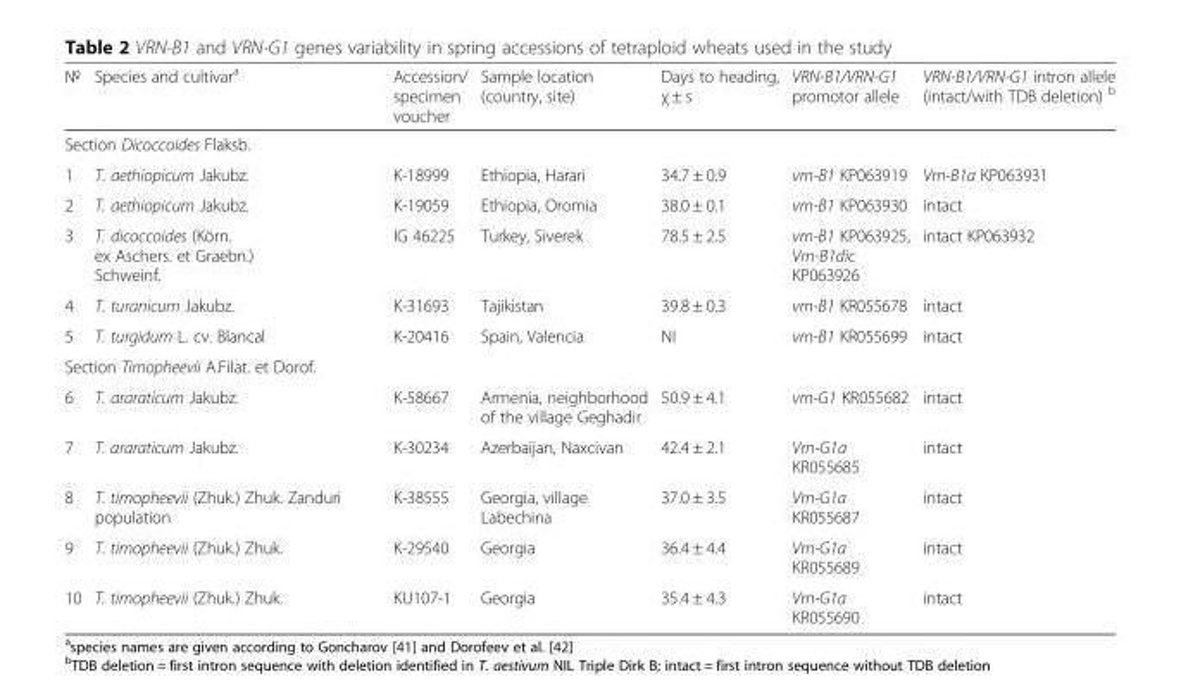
<table><thead><tr><td>№</td><td>Species and cultivar<sup>a</sup></td><td>Accession/ specimen voucher</td><td>Sample location (country, site)</td><td>Days to heading, χ ± s</td><td>VRN-B1/VRN-G1 promotor allele</td><td>VRN-B1/VRN-G1 intron allele (intact/with TDB deletion) <sup>b</sup></td></tr></thead><tbody><tr><td colspan="7">Section Dicoccoides Flaksb.</td></tr><tr><td>1</td><td>T. aethiopicum Jakubz.</td><td>K-18999</td><td>Ethiopia, Harari</td><td>34.7 ± 0.9</td><td>vrn-B1 KP063919</td><td>Vrn-B1a KP063931</td></tr><tr><td>2</td><td>T. aethiopicum Jakubz.</td><td>K-19059</td><td>Ethiopia, Oromia</td><td>38.0 ± 0.1</td><td>vrn-B1 KP063930</td><td>intact</td></tr><tr><td>3</td><td>T. dicoccoides (Körn. ex Aschers. et Graebn.) Schweinf.</td><td>IG 46225</td><td>Turkey, Siverek</td><td>78.5 ± 2.5</td><td>vrn-B1 KP063925, Vrn-B1dic KP063926</td><td>intact KP063932</td></tr><tr><td>4</td><td>T. turanicum Jakubz.</td><td>K-31693</td><td>Tajikistan</td><td>39.8 ± 0.3</td><td>vrn-B1 KR055678</td><td>intact</td></tr><tr><td>5</td><td>T. turgidum L. cv. Blancal</td><td>K-20416</td><td>Spain, Valencia</td><td>NI</td><td>vrn-B1 KR055699</td><td>intact</td></tr><tr><td colspan="7">Section Timopheevii A.Filat. et Dorof.</td></tr><tr><td>6</td><td>T. araraticum Jakubz.</td><td>K-58667</td><td>Armenia, neighborhood of the village Geghadir</td><td>50.9 ± 4.1</td><td>vrn-G1 KR055682</td><td>intact</td></tr><tr><td>7</td><td>T. araraticum Jakubz.</td><td>K-30234</td><td>Azerbaijan, Naxcivan</td><td>42.4 ± 2.1</td><td>Vrn-G1a KR055685</td><td>intact</td></tr><tr><td>8</td><td>T. timopheevii (Zhuk.) Zhuk. Zanduri population</td><td>K-38555</td><td>Georgia, village Labechina</td><td>37.0 ± 3.5</td><td>Vrn-G1a KR055687</td><td>intact</td></tr><tr><td>9</td><td>T. timopheevii (Zhuk.) Zhuk.</td><td>K-29540</td><td>Georgia</td><td>36.4 ± 4.4</td><td>Vrn-G1a KR055689</td><td>intact</td></tr><tr><td>10</td><td>T. timopheevii (Zhuk.) Zhuk.</td><td>KU107-1</td><td>Georgia</td><td>35.4 ± 4.3</td><td>Vrn-G1a KR055690</td><td>intact</td></tr></tbody></table>